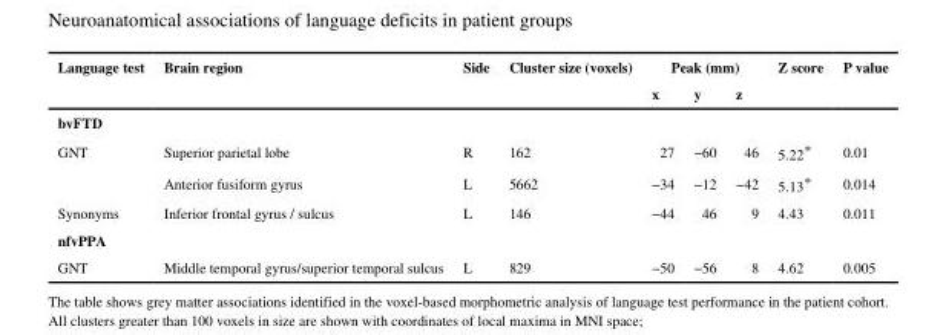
<table><thead><tr><td rowspan="2">Language test</td><td rowspan="2">Brain region</td><td rowspan="2">Side</td><td rowspan="2">Cluster size (voxels)</td><td colspan="3">Peak (mm)</td><td rowspan="2">Z score</td><td rowspan="2">P value</td></tr><tr><td>x</td><td>y</td><td>z</td></tr></thead><tbody><tr><td colspan="9">bvFTD</td></tr><tr><td rowspan="2">GNT</td><td>Superior parietal lobe</td><td>R</td><td>162</td><td>27</td><td>−60</td><td>46</td><td>5.22*</td><td>0.01</td></tr><tr><td>Anterior fusiform gyrus</td><td>L</td><td>5662</td><td>−34</td><td>−12</td><td>−42</td><td>5.13*</td><td>0.014</td></tr><tr><td>Synonyms</td><td>Inferior frontal gyrus / sulcus</td><td>L</td><td>146</td><td>−44</td><td>46</td><td>9</td><td>4.43</td><td>0.011</td></tr><tr><td colspan="9">nfvPPA</td></tr><tr><td>GNT</td><td>Middle temporal gyrus/superior temporal sulcus</td><td>L</td><td>829</td><td>−50</td><td>−56</td><td>8</td><td>4.62</td><td>0.005</td></tr></tbody></table>